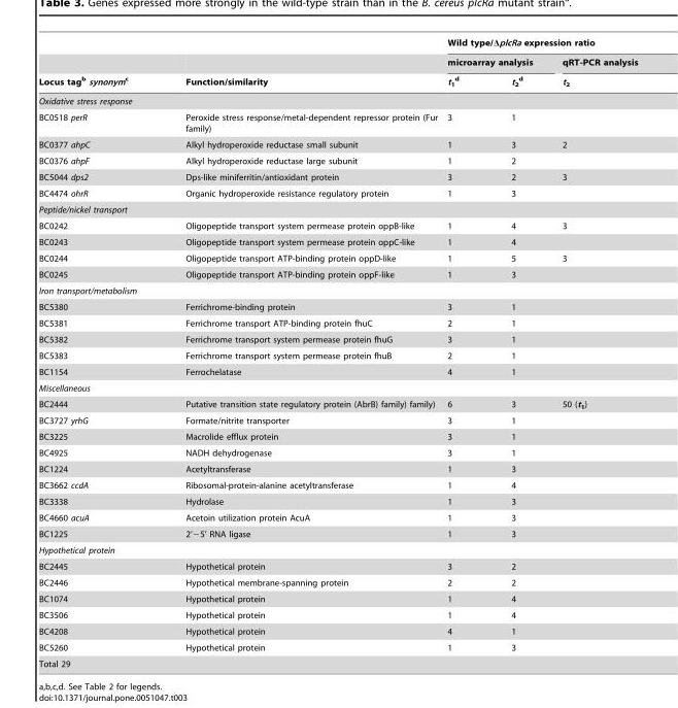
<table><thead><tr><td rowspan="3">Locus tag<sup>b</sup> synonym<sup>c</sup></td><td rowspan="3">Function/similarity</td><td colspan="3">Wild type/ΔplcRa expression ratio</td></tr><tr><td colspan="2">microarray analysis</td><td rowspan="2">qRT-PCR analysis t<sub>2</sub></td></tr><tr><td>t<sub>1</sub> <sup>d</sup></td><td>t<sub>2</sub> <sup>d</sup></td></tr></thead><tbody><tr><td colspan="5">Oxidative stress response</td></tr><tr><td>BC0518 perR</td><td>Peroxide stress response/metal-dependent repressor protein (Fur family)</td><td>3</td><td>1</td><td></td></tr><tr><td>BC0377 ahpC</td><td>Alkyl hydroperoxide reductase small subunit</td><td>1</td><td>3</td><td>2</td></tr><tr><td>BC0376 ahpF</td><td>Alkyl hydroperoxide reductase large subunit</td><td>1</td><td>2</td><td></td></tr><tr><td>BC5044 dps2</td><td>Dps-like miniferritin/antioxidant protein</td><td>3</td><td>2</td><td>3</td></tr><tr><td>BC4474 ohrR</td><td>Organic hydroperoxide resistance regulatory protein</td><td>1</td><td>3</td><td></td></tr><tr><td colspan="5">Peptide/nickel transport</td></tr><tr><td>BC0242</td><td>Oligopeptide transport system permease protein oppB-like</td><td>1</td><td>4</td><td>3</td></tr><tr><td>BC0243</td><td>Oligopeptide transport system permease protein oppC-like</td><td>1</td><td>4</td><td></td></tr><tr><td>BC0244</td><td>Oligopeptide transport ATP-binding protein oppD-like</td><td>1</td><td>5</td><td>3</td></tr><tr><td>BC0245</td><td>Oligopeptide transport ATP-binding protein oppF-like</td><td>1</td><td>3</td><td></td></tr><tr><td colspan="5">Iron transport/metabolism</td></tr><tr><td>BC5380</td><td>Ferrichrome-binding protein</td><td>3</td><td>1</td><td></td></tr><tr><td>BC5381</td><td>Ferrichrome transport ATP-binding protein fhuC</td><td>2</td><td>1</td><td></td></tr><tr><td>BC5382</td><td>Ferrichrome transport system permease protein fhuG</td><td>3</td><td>1</td><td></td></tr><tr><td>BC5383</td><td>Ferrichrome transport system permease protein fhuB</td><td>2</td><td>1</td><td></td></tr><tr><td>BC1154</td><td>Ferrochelatase</td><td>4</td><td>1</td><td></td></tr><tr><td colspan="5">Miscellaneous</td></tr><tr><td>BC2444</td><td>Putative transition state regulatory protein (AbrB) family) family)</td><td>6</td><td>3</td><td>50 (t<sub>1</sub>)</td></tr><tr><td>BC3727 yrhG</td><td>Formate/nitrite transporter</td><td>3</td><td>1</td><td></td></tr><tr><td>BC3225</td><td>Macrolide efflux protein</td><td>3</td><td>1</td><td></td></tr><tr><td>BC4925</td><td>NADH dehydrogenase</td><td>3</td><td>1</td><td></td></tr><tr><td>BC1224</td><td>Acetyltransferase</td><td>1</td><td>3</td><td></td></tr><tr><td>BC3662 ccdA</td><td>Ribosomal-protein-alanine acetyltransferase</td><td>1</td><td>4</td><td></td></tr><tr><td>BC3338</td><td>Hydrolase</td><td>1</td><td>3</td><td></td></tr><tr><td>BC4660 acuA</td><td>Acetoin utilization protein AcuA</td><td>1</td><td>3</td><td></td></tr><tr><td>BC1225</td><td>2’−5’ RNA ligase</td><td>1</td><td>3</td><td></td></tr><tr><td colspan="5">Hypothetical protein</td></tr><tr><td>BC2445</td><td>Hypothetical protein</td><td>3</td><td>2</td><td></td></tr><tr><td>BC2446</td><td>Hypothetical membrane-spanning protein</td><td>2</td><td>2</td><td></td></tr><tr><td>BC1074</td><td>Hypothetical protein</td><td>1</td><td>4</td><td></td></tr><tr><td>BC3506</td><td>Hypothetical protein</td><td>1</td><td>4</td><td></td></tr><tr><td>BC4208</td><td>Hypothetical protein</td><td>4</td><td>1</td><td></td></tr><tr><td>BC5260</td><td>Hypothetical protein</td><td>1</td><td>3</td><td></td></tr><tr><td colspan="5">Total 29</td></tr></tbody></table>